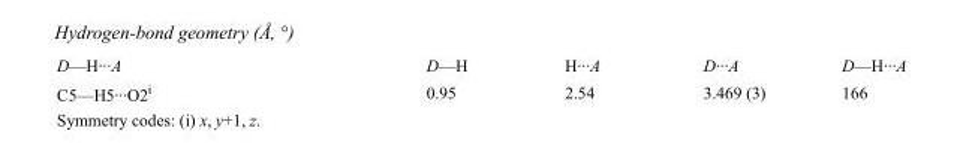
<table><tbody><tr><td>D—H···A</td><td>D—H</td><td>H···A</td><td>D···A</td><td>D—H···A</td></tr><tr><td>C5—H5···O2<sup>i</sup></td><td>0.95</td><td>2.54</td><td>3.469 (3)</td><td>166</td></tr></tbody></table>